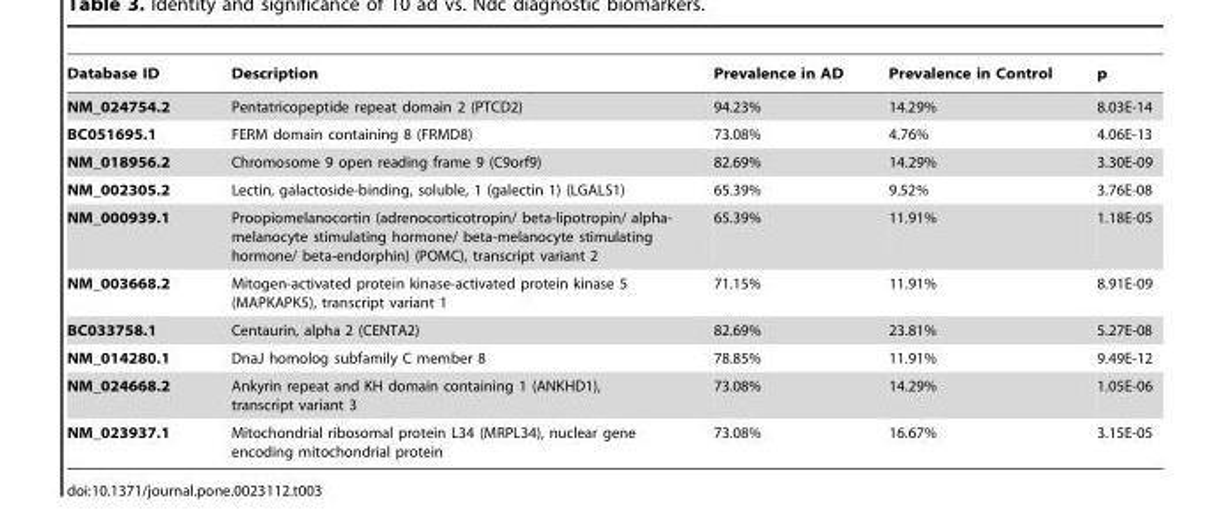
<table><thead><tr><td>Database ID</td><td>Description</td><td>Prevalence in AD</td><td>Prevalence in Control</td><td>p</td></tr></thead><tbody><tr><td>NM_024754.2</td><td>Pentatricopeptide repeat domain 2 (PTCD2)</td><td>94.23%</td><td>14.29%</td><td>8.03E-14</td></tr><tr><td>BC051695.1</td><td>FERM domain containing 8 (FRMD8)</td><td>73.08%</td><td>4.76%</td><td>4.06E-13</td></tr><tr><td>NM_018956.2</td><td>Chromosome 9 open reading frame 9 (C9orf9)</td><td>82.69%</td><td>14.29%</td><td>3.30E-09</td></tr><tr><td>NM_002305.2</td><td>Lectin, galactoside-binding, soluble, 1 (galectin 1) (LGALS1)</td><td>65.39%</td><td>9.52%</td><td>3.76E-08</td></tr><tr><td>NM_000939.1</td><td>Proopiomelanocortin (adrenocorticotropin/ beta-lipotropin/ alpha- melanocyte stimulating hormone/ beta-melanocyte stimulating hormone/ beta-endorphin) (POMC), transcript variant 2</td><td>65.39%</td><td>11.91%</td><td>1.18E-05</td></tr><tr><td>NM_003668.2</td><td>Mitogen-activated protein kinase-activated protein kinase 5 (MAPKAPK5), transcript variant 1</td><td>71.15%</td><td>11.91%</td><td>8.91E-09</td></tr><tr><td>BC033758.1</td><td>Centaurin, alpha 2 (CENTA2)</td><td>82.69%</td><td>23.81%</td><td>5.27E-08</td></tr><tr><td>NM_014280.1</td><td>DnaJ homolog subfamily C member 8</td><td>78.85%</td><td>11.91%</td><td>9.49E-12</td></tr><tr><td>NM_024668.2</td><td>Ankyrin repeat and KH domain containing 1 (ANKHD1), transcript variant 3</td><td>73.08%</td><td>14.29%</td><td>1.05E-06</td></tr><tr><td>NM_023937.1</td><td>Mitochondrial ribosomal protein L34 (MRPL34), nuclear gene encoding mitochondrial protein</td><td>73.08%</td><td>16.67%</td><td>3.15E-05</td></tr></tbody></table>